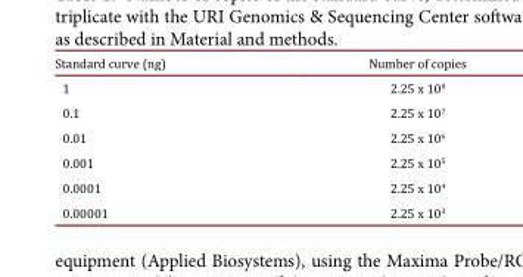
<table><thead><tr><td>Standard curve (ng)</td><td>Number of copies</td></tr></thead><tbody><tr><td>1</td><td>2.25 x 10<sup>8</sup></td></tr><tr><td>0.1</td><td>2.25 x 10<sup>7</sup></td></tr><tr><td>0.01</td><td>2.25 x 10<sup>6</sup></td></tr><tr><td>0.001</td><td>2.25 x 10<sup>5</sup></td></tr><tr><td>0.0001</td><td>2.25 x 10<sup>4</sup></td></tr><tr><td>0.00001</td><td>2.25 x 10<sup>3</sup></td></tr></tbody></table>